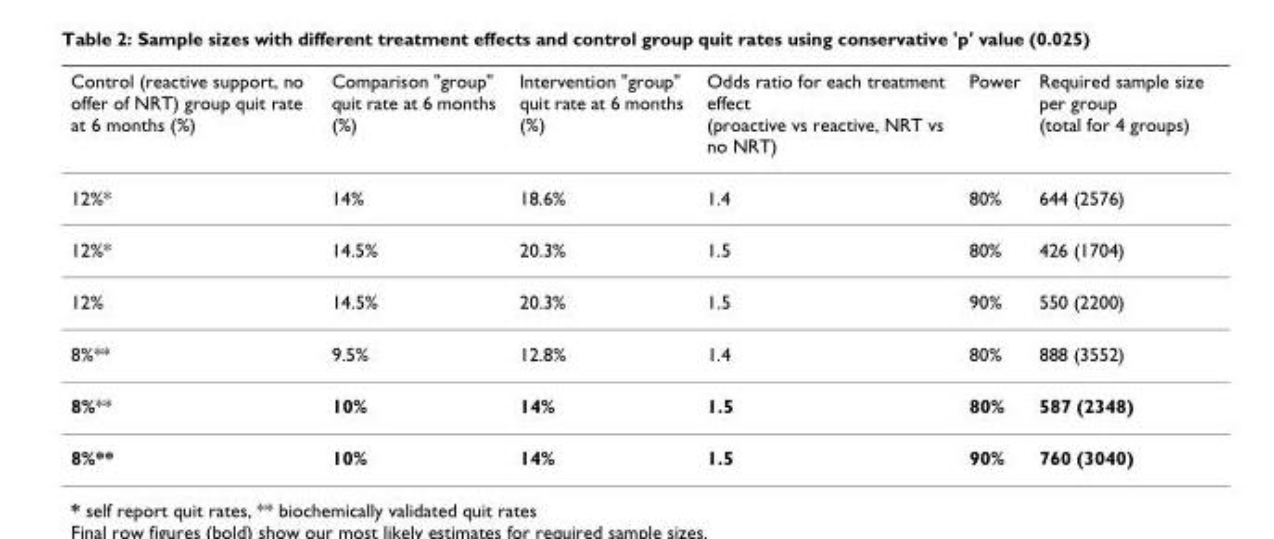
<table><thead><tr><td>Control (reactive support, no offer of NRT) group quit rate at 6 months (%)</td><td>Comparison &quot;group&quot; quit rate at 6 months (%)</td><td>Intervention &quot;group&quot; quit rate at 6 months (%)</td><td>Odds ratio for each treatment effect (proactive vs reactive, NRT vs no NRT)</td><td>Power</td><td>Required sample size per group (total for 4 groups)</td></tr></thead><tbody><tr><td>12%*</td><td>14%</td><td>18.6%</td><td>1.4</td><td>80%</td><td>644 (2576)</td></tr><tr><td>12%*</td><td>14.5%</td><td>20.3%</td><td>1.5</td><td>80%</td><td>426 (1704)</td></tr><tr><td>12%</td><td>14.5%</td><td>20.3%</td><td>1.5</td><td>90%</td><td>550 (2200)</td></tr><tr><td>8%**</td><td>9.5%</td><td>12.8%</td><td>1.4</td><td>80%</td><td>888 (3552)</td></tr><tr><td>8%**</td><td>10%</td><td>14%</td><td>1.5</td><td>80%</td><td>587 (2348)</td></tr><tr><td>8%**</td><td>10%</td><td>14%</td><td>1.5</td><td>90%</td><td>760 (3040)</td></tr></tbody></table>